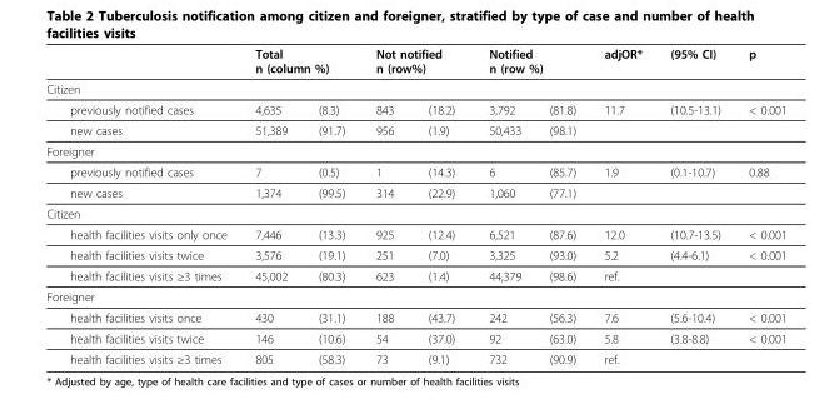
<table><thead><tr><td></td><td colspan="2">Total n (column %)</td><td colspan="2">Not notified n (row%)</td><td colspan="2">Notified n (row %)</td><td>adjOR*</td><td>(95% CI)</td><td>p</td></tr><tr><td colspan="10">Citizen</td></tr><tr><td>previously notified cases</td><td>4,635</td><td>(8.3)</td><td>843</td><td>(18.2)</td><td>3,792</td><td>(81.8)</td><td>11.7</td><td>(10.5-13.1)</td><td>&lt; 0.001</td></tr></thead><tbody><tr><td>new cases</td><td>51,389</td><td>(91.7)</td><td>956</td><td>(1.9)</td><td>50,433</td><td>(98.1)</td><td></td><td></td><td></td></tr><tr><td colspan="10">Foreigner</td></tr><tr><td>previously notified cases</td><td>7</td><td>(0.5)</td><td>1</td><td>(14.3)</td><td>6</td><td>(85.7)</td><td>1.9</td><td>(0.1-10.7)</td><td>0.88</td></tr><tr><td>new cases</td><td>1,374</td><td>(99.5)</td><td>314</td><td>(22.9)</td><td>1,060</td><td>(77.1)</td><td></td><td></td><td></td></tr><tr><td colspan="10">Citizen</td></tr><tr><td>health facilities visits only once</td><td>7,446</td><td>(13.3)</td><td>925</td><td>(12.4)</td><td>6,521</td><td>(87.6)</td><td>12.0</td><td>(10.7-13.5)</td><td>&lt; 0.001</td></tr><tr><td>health facilities visits twice</td><td>3,576</td><td>(19.1)</td><td>251</td><td>(7.0)</td><td>3,325</td><td>(93.0)</td><td>5.2</td><td>(4.4-6.1)</td><td>&lt; 0.001</td></tr><tr><td>health facilities visits ≥3 times</td><td>45,002</td><td>(80.3)</td><td>623</td><td>(1.4)</td><td>44,379</td><td>(98.6)</td><td>ref.</td><td></td><td></td></tr><tr><td colspan="10">Foreigner</td></tr><tr><td>health facilities visits once</td><td>430</td><td>(31.1)</td><td>188</td><td>(43.7)</td><td>242</td><td>(56.3)</td><td>7.6</td><td>(5.6-10.4)</td><td>&lt; 0.001</td></tr><tr><td>health facilities visits twice</td><td>146</td><td>(10.6)</td><td>54</td><td>(37.0)</td><td>92</td><td>(63.0)</td><td>5.8</td><td>(3.8-8.8)</td><td>&lt; 0.001</td></tr><tr><td>health facilities visits ≥3 times</td><td>805</td><td>(58.3)</td><td>73</td><td>(9.1)</td><td>732</td><td>(90.9)</td><td>ref.</td><td></td><td></td></tr></tbody></table>